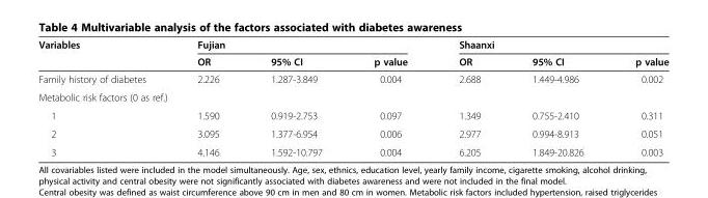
<table><thead><tr><td rowspan="2">Variables</td><td colspan="3">Fujian</td><td colspan="3">Shaanxi</td></tr><tr><td>OR</td><td>95% CI</td><td>p value</td><td>OR</td><td>95% CI</td><td>p value</td></tr></thead><tbody><tr><td>Family history of diabetes</td><td>2.226</td><td>1.287-3.849</td><td>0.004</td><td>2.688</td><td>1.449-4.986</td><td>0.002</td></tr><tr><td colspan="7">Metabolic risk factors (0 as ref.)</td></tr><tr><td>1</td><td>1.590</td><td>0.919-2.753</td><td>0.097</td><td>1.349</td><td>0.755-2.410</td><td>0.311</td></tr><tr><td>2</td><td>3.095</td><td>1.377-6.954</td><td>0.006</td><td>2.977</td><td>0.994-8.913</td><td>0.051</td></tr><tr><td>3</td><td>4.146</td><td>1.592-10.797</td><td>0.004</td><td>6.205</td><td>1.849-20.826</td><td>0.003</td></tr></tbody></table>